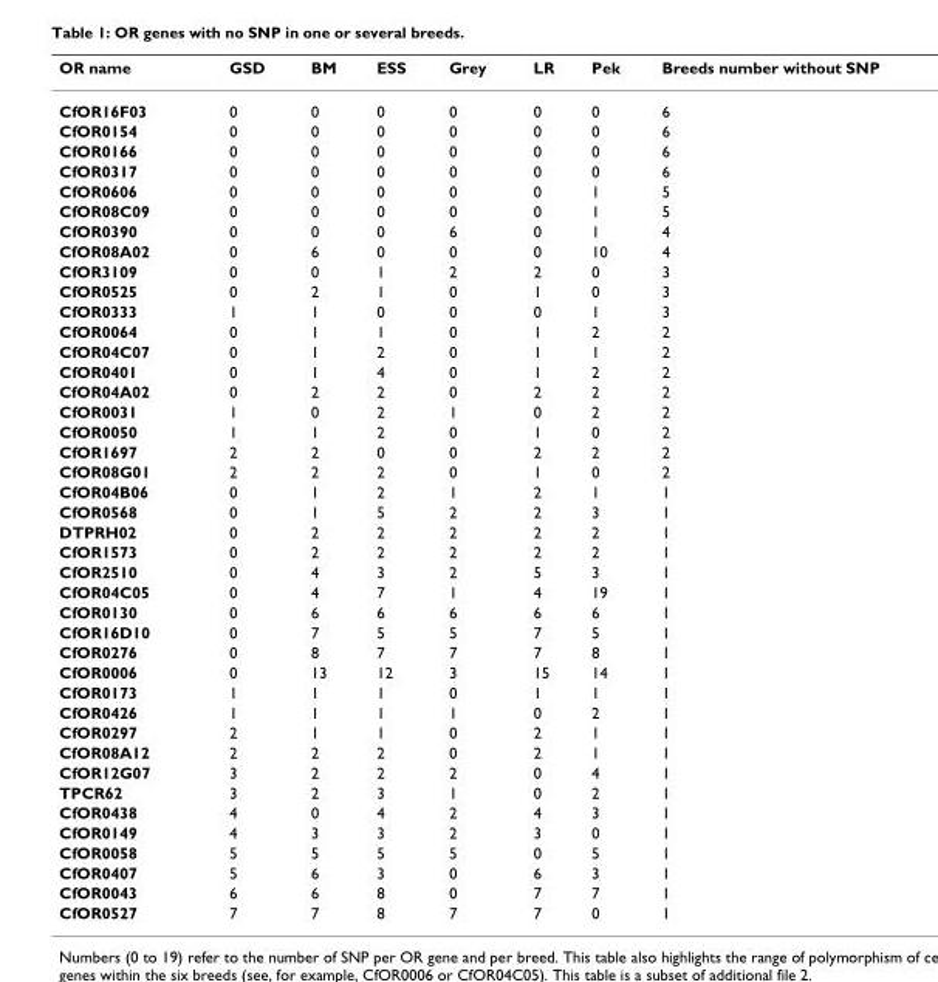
<table><thead><tr><td>OR name</td><td>GSD</td><td>BM</td><td>ESS</td><td>Grey</td><td>LR</td><td>Pek</td><td>Breeds number without SNP</td></tr></thead><tbody><tr><td>CfOR16F03</td><td>0</td><td>0</td><td>0</td><td>0</td><td>0</td><td>0</td><td>6</td></tr><tr><td>CfOR0154</td><td>0</td><td>0</td><td>0</td><td>0</td><td>0</td><td>0</td><td>6</td></tr><tr><td>CfOR0166</td><td>0</td><td>0</td><td>0</td><td>0</td><td>0</td><td>0</td><td>6</td></tr><tr><td>CfOR0317</td><td>0</td><td>0</td><td>0</td><td>0</td><td>0</td><td>0</td><td>6</td></tr><tr><td>CfOR0606</td><td>0</td><td>0</td><td>0</td><td>0</td><td>0</td><td>1</td><td>5</td></tr><tr><td>CfOR08C09</td><td>0</td><td>0</td><td>0</td><td>0</td><td>0</td><td>1</td><td>5</td></tr><tr><td>CfOR0390</td><td>0</td><td>0</td><td>0</td><td>6</td><td>0</td><td>1</td><td>4</td></tr><tr><td>CfOR08A02</td><td>0</td><td>6</td><td>0</td><td>0</td><td>0</td><td>10</td><td>4</td></tr><tr><td>CfOR3109</td><td>0</td><td>0</td><td>1</td><td>2</td><td>2</td><td>0</td><td>3</td></tr><tr><td>CfOR0525</td><td>0</td><td>2</td><td>1</td><td>0</td><td>1</td><td>0</td><td>3</td></tr><tr><td>CfOR0333</td><td>1</td><td>1</td><td>0</td><td>0</td><td>0</td><td>1</td><td>3</td></tr><tr><td>CfOR0064</td><td>0</td><td>1</td><td>1</td><td>0</td><td>1</td><td>2</td><td>2</td></tr><tr><td>CfOR04C07</td><td>0</td><td>1</td><td>2</td><td>0</td><td>1</td><td>1</td><td>2</td></tr><tr><td>CfOR0401</td><td>0</td><td>1</td><td>4</td><td>0</td><td>1</td><td>2</td><td>2</td></tr><tr><td>CfOR04A02</td><td>0</td><td>2</td><td>2</td><td>0</td><td>2</td><td>2</td><td>2</td></tr><tr><td>CfOR0031</td><td>1</td><td>0</td><td>2</td><td>1</td><td>0</td><td>2</td><td>2</td></tr><tr><td>CfOR0050</td><td>1</td><td>1</td><td>2</td><td>0</td><td>1</td><td>0</td><td>2</td></tr><tr><td>CfOR1697</td><td>2</td><td>2</td><td>0</td><td>0</td><td>2</td><td>2</td><td>2</td></tr><tr><td>CfOR08G01</td><td>2</td><td>2</td><td>2</td><td>0</td><td>1</td><td>0</td><td>2</td></tr><tr><td>CfOR04B06</td><td>0</td><td>1</td><td>2</td><td>1</td><td>2</td><td>1</td><td>1</td></tr><tr><td>CfOR0568</td><td>0</td><td>1</td><td>5</td><td>2</td><td>2</td><td>3</td><td>1</td></tr><tr><td>DTPRH02</td><td>0</td><td>2</td><td>2</td><td>2</td><td>2</td><td>2</td><td>1</td></tr><tr><td>CfOR1573</td><td>0</td><td>2</td><td>2</td><td>2</td><td>2</td><td>2</td><td>1</td></tr><tr><td>CfOR2510</td><td>0</td><td>4</td><td>3</td><td>2</td><td>5</td><td>3</td><td>1</td></tr><tr><td>CfOR04C05</td><td>0</td><td>4</td><td>7</td><td>1</td><td>4</td><td>19</td><td>1</td></tr><tr><td>CfOR0130</td><td>0</td><td>6</td><td>6</td><td>6</td><td>6</td><td>6</td><td>1</td></tr><tr><td>CfOR16D10</td><td>0</td><td>7</td><td>5</td><td>5</td><td>7</td><td>5</td><td>1</td></tr><tr><td>CfOR0276</td><td>0</td><td>8</td><td>7</td><td>7</td><td>7</td><td>8</td><td>1</td></tr><tr><td>CfOR0006</td><td>0</td><td>13</td><td>12</td><td>3</td><td>15</td><td>14</td><td>1</td></tr><tr><td>CfOR0173</td><td>1</td><td>1</td><td>1</td><td>0</td><td>1</td><td>1</td><td>1</td></tr><tr><td>CfOR0426</td><td>1</td><td>1</td><td>1</td><td>1</td><td>0</td><td>2</td><td>1</td></tr><tr><td>CfOR0297</td><td>2</td><td>1</td><td>1</td><td>0</td><td>2</td><td>1</td><td>1</td></tr><tr><td>CfOR08A12</td><td>2</td><td>2</td><td>2</td><td>0</td><td>2</td><td>1</td><td>1</td></tr><tr><td>CfOR12G07</td><td>3</td><td>2</td><td>2</td><td>2</td><td>0</td><td>4</td><td>1</td></tr><tr><td>TPCR62</td><td>3</td><td>2</td><td>3</td><td>1</td><td>0</td><td>2</td><td>1</td></tr><tr><td>CfOR0438</td><td>4</td><td>0</td><td>4</td><td>2</td><td>4</td><td>3</td><td>1</td></tr><tr><td>CfOR0149</td><td>4</td><td>3</td><td>3</td><td>2</td><td>3</td><td>0</td><td>1</td></tr><tr><td>CfOR0058</td><td>5</td><td>5</td><td>5</td><td>5</td><td>0</td><td>5</td><td>1</td></tr><tr><td>CfOR0407</td><td>5</td><td>6</td><td>3</td><td>0</td><td>6</td><td>3</td><td>1</td></tr><tr><td>CfOR0043</td><td>6</td><td>6</td><td>8</td><td>0</td><td>7</td><td>7</td><td>1</td></tr><tr><td>CfOR0527</td><td>7</td><td>7</td><td>8</td><td>7</td><td>7</td><td>0</td><td>1</td></tr></tbody></table>